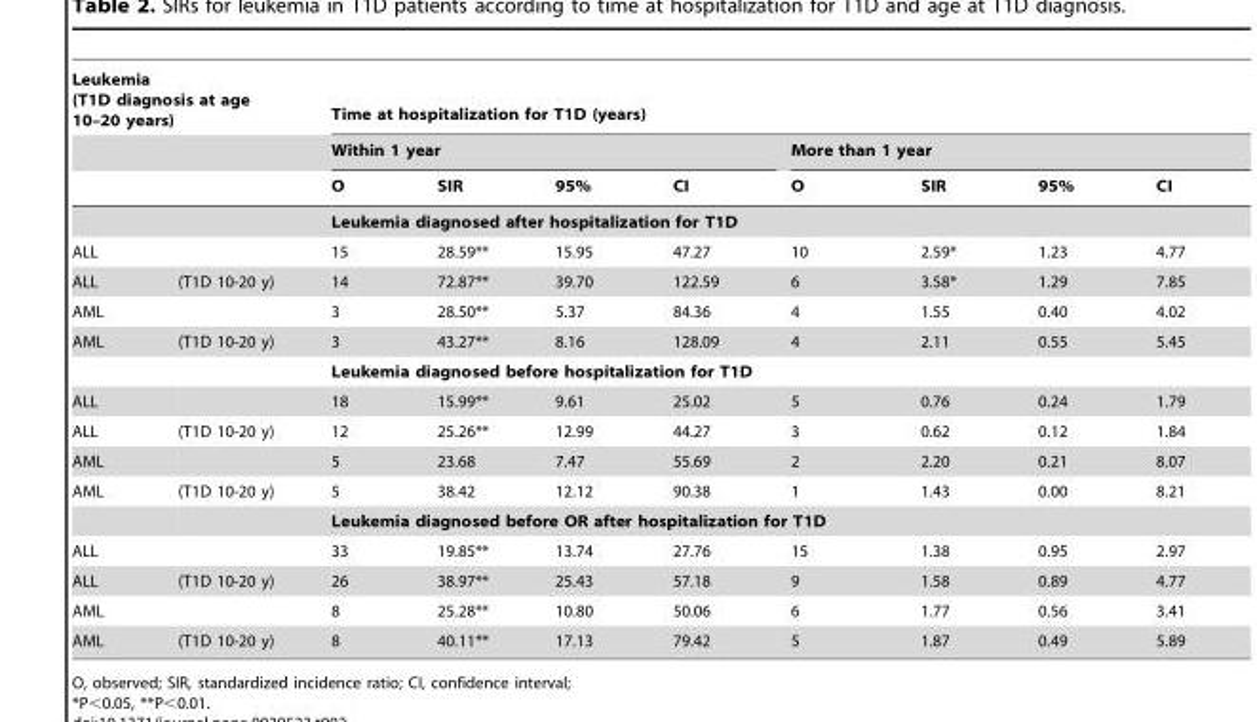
<table><thead><tr><td colspan="2">Leukemia (T1D diagnosis at age 10–20 years)</td><td colspan="8">Time at hospitalization for T1D (years)</td></tr><tr><td rowspan="2"></td><td rowspan="2"></td><td colspan="4">Within 1 year</td><td colspan="4">More than 1 year</td></tr><tr><td>O</td><td>SIR</td><td>95%</td><td>CI</td><td>O</td><td>SIR</td><td>95%</td><td>CI</td></tr></thead><tbody><tr><td colspan="2"></td><td colspan="8">Leukemia diagnosed after hospitalization for T1D</td></tr><tr><td>ALL</td><td></td><td>15</td><td>28.59**</td><td>15.95</td><td>47.27</td><td>10</td><td>2.59*</td><td>1.23</td><td>4.77</td></tr><tr><td>ALL</td><td>(T1D 10-20 y)</td><td>14</td><td>72.87**</td><td>39.70</td><td>122.59</td><td>6</td><td>3.58*</td><td>1.29</td><td>7.85</td></tr><tr><td>AML</td><td></td><td>3</td><td>28.50**</td><td>5.37</td><td>84.36</td><td>4</td><td>1.55</td><td>0.40</td><td>4.02</td></tr><tr><td rowspan="2">AML</td><td>(T1D 10-20 y)</td><td>3</td><td>43.27**</td><td>8.16</td><td>128.09</td><td>4</td><td>2.11</td><td>0.55</td><td>5.45</td></tr><tr><td></td><td colspan="8">Leukemia diagnosed before hospitalization for T1D</td></tr><tr><td>ALL</td><td></td><td>18</td><td>15.99**</td><td>9.61</td><td>25.02</td><td>5</td><td>0.76</td><td>0.24</td><td>1.79</td></tr><tr><td>ALL</td><td>(T1D 10-20 y)</td><td>12</td><td>25.26**</td><td>12.99</td><td>44.27</td><td>3</td><td>0.62</td><td>0.12</td><td>1.84</td></tr><tr><td>AML</td><td></td><td>5</td><td>23.68</td><td>7.47</td><td>55.69</td><td>2</td><td>2.20</td><td>0.21</td><td>8.07</td></tr><tr><td rowspan="2">AML</td><td>(T1D 10-20 y)</td><td>5</td><td>38.42</td><td>12.12</td><td>90.38</td><td>1</td><td>1.43</td><td>0.00</td><td>8.21</td></tr><tr><td></td><td colspan="8">Leukemia diagnosed before OR after hospitalization for T1D</td></tr><tr><td>ALL</td><td></td><td>33</td><td>19.85**</td><td>13.74</td><td>27.76</td><td>15</td><td>1.38</td><td>0.95</td><td>2.97</td></tr><tr><td>ALL</td><td>(T1D 10-20 y)</td><td>26</td><td>38.97**</td><td>25.43</td><td>57.18</td><td>9</td><td>1.58</td><td>0.89</td><td>4.77</td></tr><tr><td>AML</td><td></td><td>8</td><td>25.28**</td><td>10.80</td><td>50.06</td><td>6</td><td>1.77</td><td>0.56</td><td>3.41</td></tr><tr><td>AML</td><td>(T1D 10-20 y)</td><td>8</td><td>40.11**</td><td>17.13</td><td>79.42</td><td>5</td><td>1.87</td><td>0.49</td><td>5.89</td></tr></tbody></table>